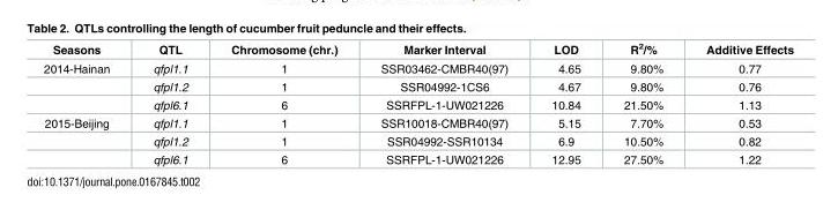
<table><thead><tr><td>Seasons</td><td>QTL</td><td>Chromosome (chr.)</td><td>Marker Interval</td><td>LOD</td><td>R<sup>2</sup>/%</td><td>Additive Effects</td></tr></thead><tbody><tr><td rowspan="3">2014-Hainan</td><td>qfpl1.1</td><td>1</td><td>SSR03462-CMBR40(97)</td><td>4.65</td><td>9.80%</td><td>0.77</td></tr><tr><td>qfpl1.2</td><td>1</td><td>SSR04992-1CS6</td><td>4.67</td><td>9.80%</td><td>0.76</td></tr><tr><td>qfpl6.1</td><td>6</td><td>SSRFPL-1-UW021226</td><td>10.84</td><td>21.50%</td><td>1.13</td></tr><tr><td rowspan="3">2015-Beijing</td><td>qfpl1.1</td><td>1</td><td>SSR10018-CMBR40(97)</td><td>5.15</td><td>7.70%</td><td>0.53</td></tr><tr><td>qfpl1.2</td><td>1</td><td>SSR04992-SSR10134</td><td>6.9</td><td>10.50%</td><td>0.82</td></tr><tr><td>qfpl6.1</td><td>6</td><td>SSRFPL-1-UW021226</td><td>12.95</td><td>27.50%</td><td>1.22</td></tr></tbody></table>